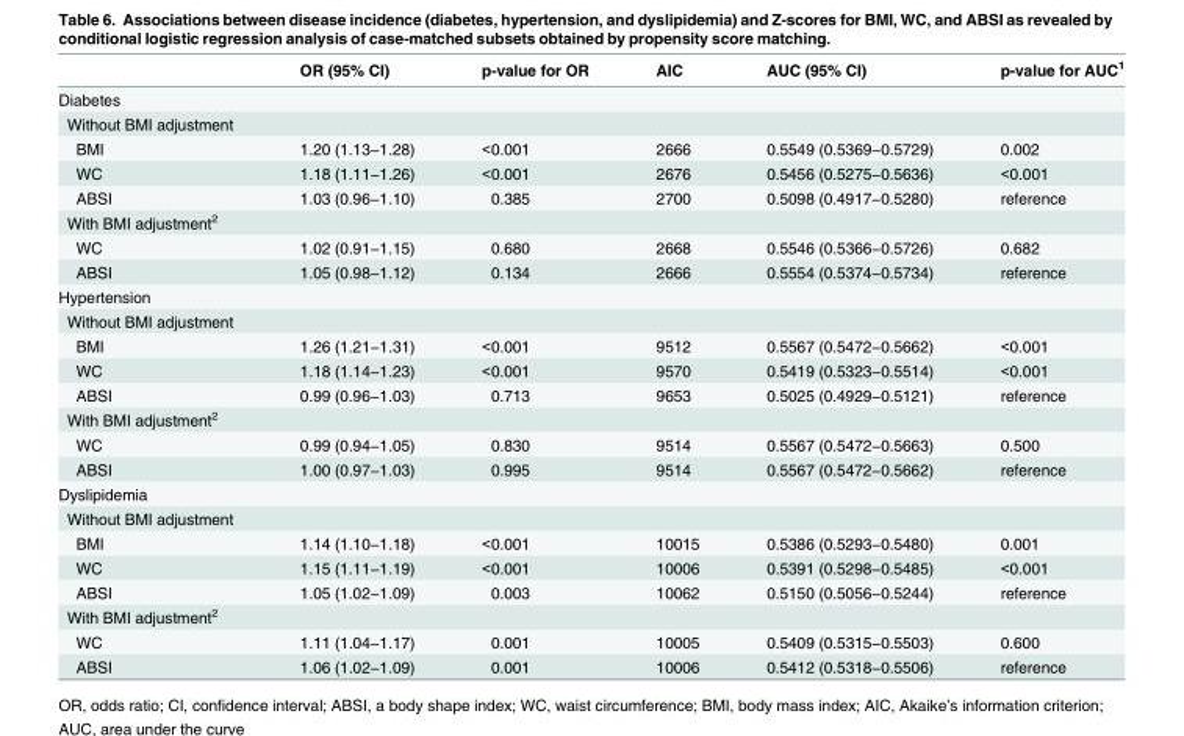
<table><thead><tr><td></td><td>OR (95% CI)</td><td>p-value for OR</td><td>AIC</td><td>AUC (95% CI)</td><td>p-value for AUC<sup>1</sup></td></tr></thead><tbody><tr><td colspan="6">Diabetes</td></tr><tr><td colspan="6">Without BMI adjustment</td></tr><tr><td>BMI</td><td>1.20 (1.13−1.28)</td><td>&lt;0.001</td><td>2666</td><td>0.5549 (0.5369−0.5729)</td><td>0.002</td></tr><tr><td>WC</td><td>1.18 (1.11−1.26)</td><td>&lt;0.001</td><td>2676</td><td>0.5456 (0.5275−0.5636)</td><td>&lt;0.001</td></tr><tr><td>ABSI</td><td>1.03 (0.96−1.10)</td><td>0.385</td><td>2700</td><td>0.5098 (0.4917−0.5280)</td><td>reference</td></tr><tr><td colspan="6">With BMI adjustment<sup>2</sup></td></tr><tr><td>WC</td><td>1.02 (0.91−1.15)</td><td>0.680</td><td>2668</td><td>0.5546 (0.5366−0.5726)</td><td>0.682</td></tr><tr><td>ABSI</td><td>1.05 (0.98−1.12)</td><td>0.134</td><td>2666</td><td>0.5554 (0.5374−0.5734)</td><td>reference</td></tr><tr><td colspan="6">Hypertension</td></tr><tr><td colspan="6">Without BMI adjustment</td></tr><tr><td>BMI</td><td>1.26 (1.21−1.31)</td><td>&lt;0.001</td><td>9512</td><td>0.5567 (0.5472−0.5662)</td><td>&lt;0.001</td></tr><tr><td>WC</td><td>1.18 (1.14−1.23)</td><td>&lt;0.001</td><td>9570</td><td>0.5419 (0.5323−0.5514)</td><td>&lt;0.001</td></tr><tr><td>ABSI</td><td>0.99 (0.96−1.03)</td><td>0.713</td><td>9653</td><td>0.5025 (0.4929−0.5121)</td><td>reference</td></tr><tr><td colspan="6">With BMI adjustment<sup>2</sup></td></tr><tr><td>WC</td><td>0.99 (0.94−1.05)</td><td>0.830</td><td>9514</td><td>0.5567 (0.5472−0.5663)</td><td>0.500</td></tr><tr><td>ABSI</td><td>1.00 (0.97−1.03)</td><td>0.995</td><td>9514</td><td>0.5567 (0.5472−0.5662)</td><td>reference</td></tr><tr><td colspan="6">Dyslipidemia</td></tr><tr><td colspan="6">Without BMI adjustment</td></tr><tr><td>BMI</td><td>1.14 (1.10−1.18)</td><td>&lt;0.001</td><td>10015</td><td>0.5386 (0.5293−0.5480)</td><td>0.001</td></tr><tr><td>WC</td><td>1.15 (1.11−1.19)</td><td>&lt;0.001</td><td>10006</td><td>0.5391 (0.5298−0.5485)</td><td>&lt;0.001</td></tr><tr><td>ABSI</td><td>1.05 (1.02−1.09)</td><td>0.003</td><td>10062</td><td>0.5150 (0.5056−0.5244)</td><td>reference</td></tr><tr><td colspan="6">With BMI adjustment<sup>2</sup></td></tr><tr><td>WC</td><td>1.11 (1.04−1.17)</td><td>0.001</td><td>10005</td><td>0.5409 (0.5315−0.5503)</td><td>0.600</td></tr><tr><td>ABSI</td><td>1.06 (1.02−1.09)</td><td>0.001</td><td>10006</td><td>0.5412 (0.5318−0.5506)</td><td>reference</td></tr></tbody></table>